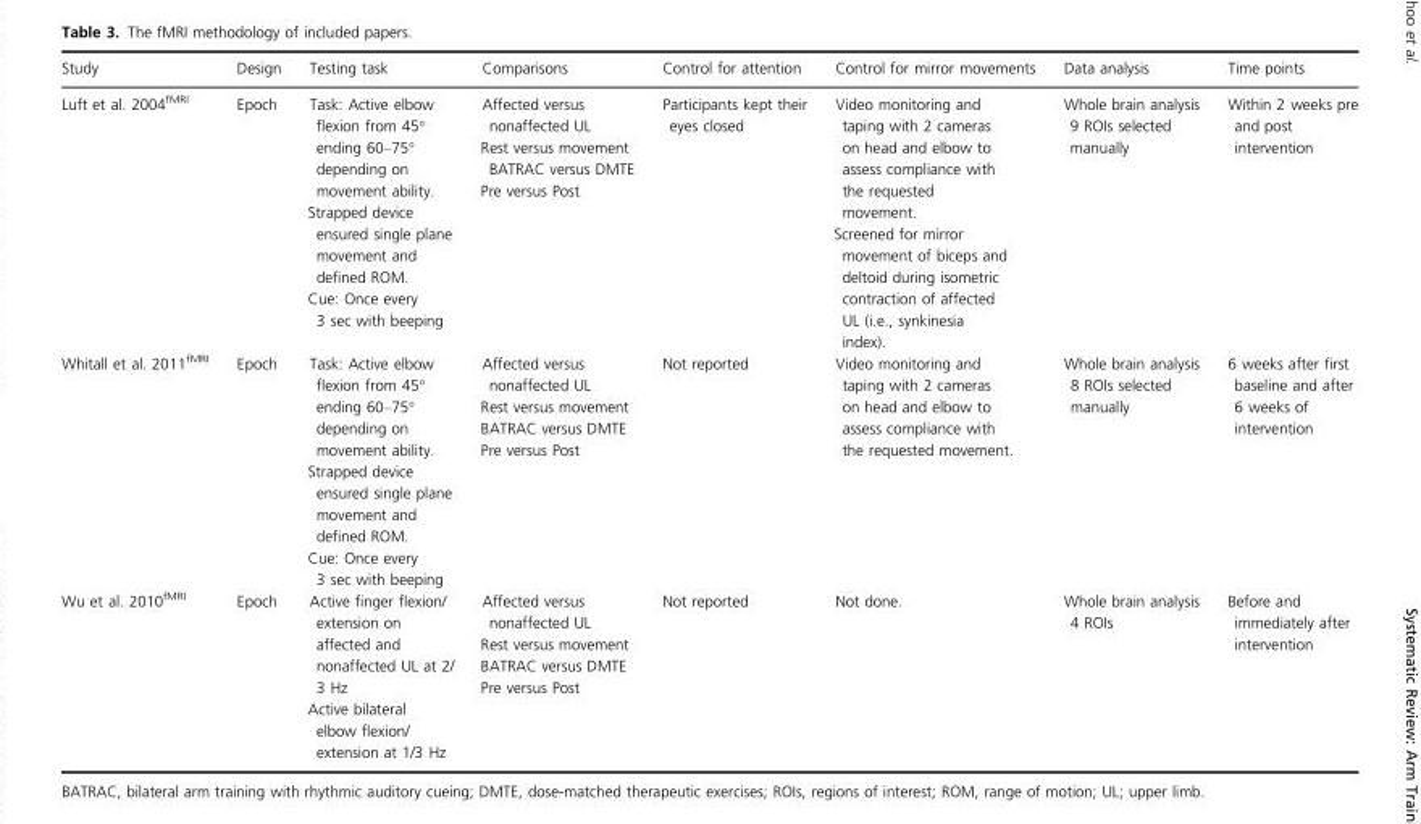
<table><thead><tr><td>Study</td><td>Design</td><td>Testing task</td><td>Comparisons</td><td>Control for attention</td><td>Control for mirror movements</td><td>Data analysis</td><td>Time points</td></tr></thead><tbody><tr><td>Luft et al. 2004<sup>fMRI</sup></td><td>Epoch</td><td>Task: Active elbow flexion from 45° ending 60–75° depending on movement ability. Strapped device ensured single plane movement and defined ROM. Cue: Once every 3 sec with beeping</td><td>Affected versus nonaffected UL Rest versus movement BATRAC versus DMTE Pre versus Post</td><td>Participants kept their eyes closed</td><td>Video monitoring and taping with 2 cameras on head and elbow to assess compliance with the requested movement. Screened for mirror movement of biceps and deltoid during isometric contraction of affected UL (i.e., synkinesia index).</td><td>Whole brain analysis 9 ROIs selected manually</td><td>Within 2 weeks pre and post intervention</td></tr><tr><td>Whitall et al. 2011<sup>fMRI</sup></td><td>Epoch</td><td>Task: Active elbow flexion from 45° ending 60–75° depending on movement ability. Strapped device ensured single plane movement and defined ROM. Cue: Once every 3 sec with beeping</td><td>Affected versus nonaffected UL Rest versus movement BATRAC versus DMTE Pre versus Post</td><td>Not reported</td><td>Video monitoring and taping with 2 cameras on head and elbow to assess compliance with the requested movement.</td><td>Whole brain analysis 8 ROIs selected manually</td><td>6 weeks after first baseline and after 6 weeks of intervention</td></tr><tr><td>Wu et al. 2010<sup>fMRI</sup></td><td>Epoch</td><td>Active finger flexion/ extension on affected and nonaffected UL at 2/ 3 Hz Active bilateral elbow flexion/ extension at 1/3 Hz</td><td>Affected versus nonaffected UL Rest versus movement BATRAC versus DMTE Pre versus Post</td><td>Not reported</td><td>Not done.</td><td>Whole brain analysis 4 ROIs</td><td>Before and immediately after intervention</td></tr></tbody></table>